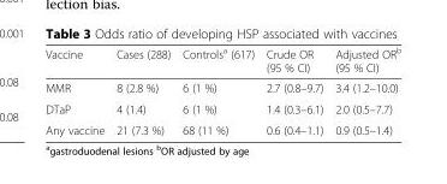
<table><thead><tr><td>Vaccine</td><td>Cases (288)</td><td>Controls<sup>a</sup> (617)</td><td>Crude OR (95 % CI)</td><td>Adjusted OR<sup>b</sup> (95 % CI)</td></tr></thead><tbody><tr><td>MMR</td><td>8 (2.8 %)</td><td>6 (1 %)</td><td>2.7 (0.8–9.7)</td><td>3.4 (1.2–10.0)</td></tr><tr><td>DTaP</td><td>4 (1.4)</td><td>6 (1 %)</td><td>1.4 (0.3–6.1)</td><td>2.0 (0.5–7.7)</td></tr><tr><td>Any vaccine</td><td>21 (7.3 %)</td><td>68 (11 %)</td><td>0.6 (0.4–1.1)</td><td>0.9 (0.5–1.4)</td></tr></tbody></table>